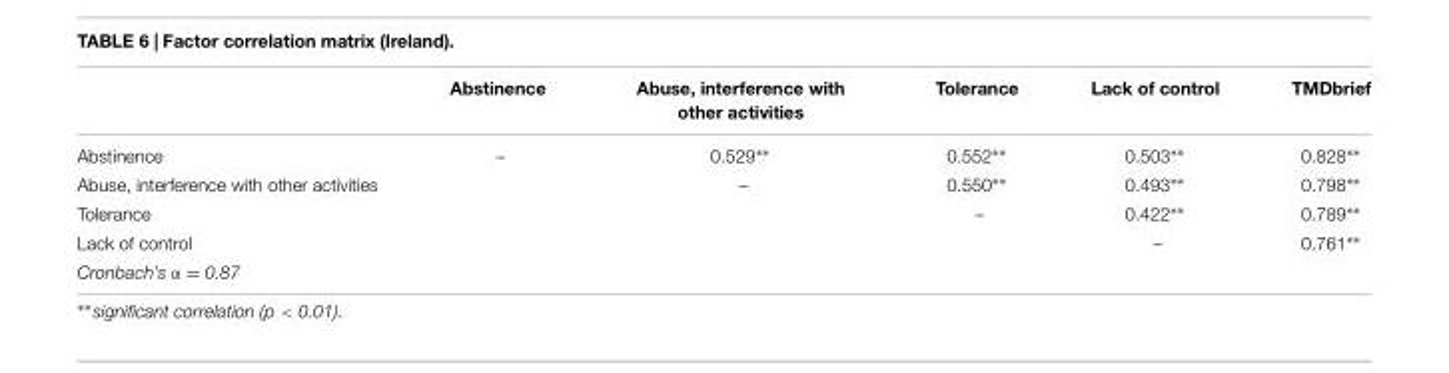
<table><thead><tr><td></td><td>Abstinence</td><td>Abuse, interference with other activities</td><td>Tolerance</td><td>Lack of control</td><td>TMDbrief</td></tr></thead><tbody><tr><td>Abstinence</td><td>–</td><td>0.529∗∗</td><td>0.552∗∗</td><td>0.503∗∗</td><td>0.828∗∗</td></tr><tr><td>Abuse, interference with other activities</td><td></td><td>–</td><td>0.550∗∗</td><td>0.493∗∗</td><td>0.798∗∗</td></tr><tr><td>Tolerance</td><td></td><td></td><td>–</td><td>0.422∗∗</td><td>0.789∗∗</td></tr><tr><td>Lack of control</td><td></td><td></td><td></td><td>–</td><td>0.761∗∗</td></tr><tr><td>Cronbach’s α = 0.87</td><td></td><td></td><td></td><td></td><td></td></tr></tbody></table>